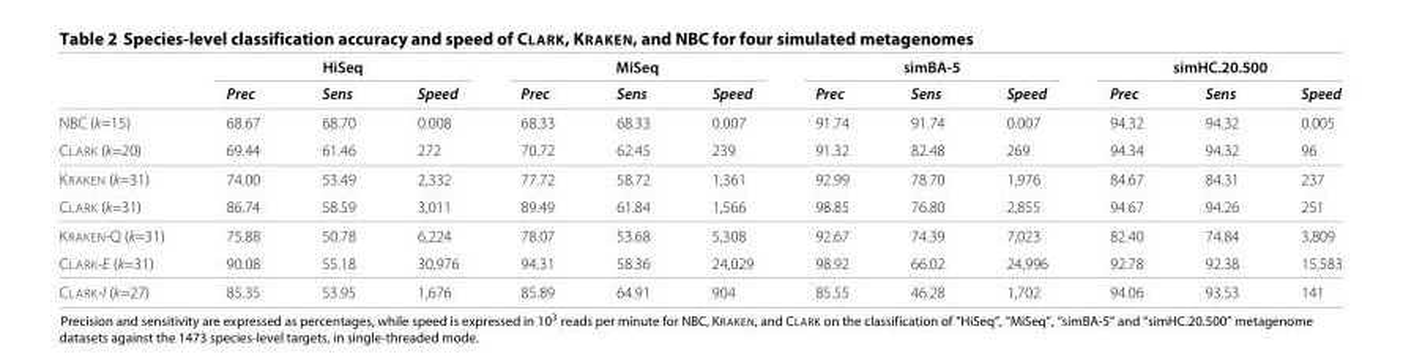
<table><thead><tr><td rowspan="2"></td><td colspan="3">HiSeq</td><td colspan="3">MiSeq</td><td colspan="3">simBA-5</td><td colspan="3">simHC.20.500</td></tr><tr><td>Prec</td><td>Sens</td><td>Speed</td><td>Prec</td><td>Sens</td><td>Speed</td><td>Prec</td><td>Sens</td><td>Speed</td><td>Prec</td><td>Sens</td><td>Speed</td></tr></thead><tbody><tr><td>NBC (k=15)</td><td>68.67</td><td>68.70</td><td>0.008</td><td>68.33</td><td>68.33</td><td>0.007</td><td>91.74</td><td>91.74</td><td>0.007</td><td>94.32</td><td>94.32</td><td>0.005</td></tr><tr><td>CLARK (k=20)</td><td>69.44</td><td>61.46</td><td>272</td><td>70.72</td><td>62.45</td><td>239</td><td>91.32</td><td>82.48</td><td>269</td><td>94.34</td><td>94.32</td><td>96</td></tr><tr><td>KRAKEN (k=31)</td><td>74.00</td><td>53.49</td><td>2,332</td><td>77.72</td><td>58.72</td><td>1,361</td><td>92.99</td><td>78.70</td><td>1,976</td><td>84.67</td><td>84.31</td><td>237</td></tr><tr><td>CLARK (k=31)</td><td>86.74</td><td>58.59</td><td>3,011</td><td>89.49</td><td>61.84</td><td>1,566</td><td>98.85</td><td>76.80</td><td>2,855</td><td>94.67</td><td>94.26</td><td>251</td></tr><tr><td>KRAKEN-Q (k=31)</td><td>75.88</td><td>50.78</td><td>6,224</td><td>78.07</td><td>53.68</td><td>5,308</td><td>92.67</td><td>74.39</td><td>7,023</td><td>82.40</td><td>74.84</td><td>3,809</td></tr><tr><td>CLARK-E (k=31)</td><td>90.08</td><td>55.18</td><td>30,976</td><td>94.31</td><td>58.36</td><td>24,029</td><td>98.92</td><td>66.02</td><td>24,996</td><td>92.78</td><td>92.38</td><td>15,583</td></tr><tr><td>CLARK-l (k=27)</td><td>85.35</td><td>53.95</td><td>1,676</td><td>85.89</td><td>64.91</td><td>904</td><td>85.55</td><td>46.28</td><td>1,702</td><td>94.06</td><td>93.53</td><td>141</td></tr></tbody></table>